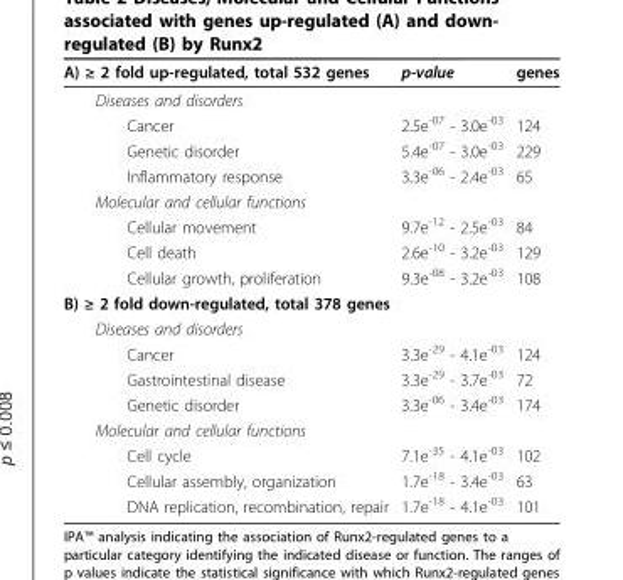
<table><thead><tr><td>A) ≥ 2 fold up-regulated, total 532 genes</td><td>p-value</td><td>genes</td></tr></thead><tbody><tr><td colspan="3">Diseases and disorders</td></tr><tr><td>Cancer</td><td>2.5e<sup>-07</sup> - 3.0e<sup>-03</sup></td><td>124</td></tr><tr><td>Genetic disorder</td><td>5.4e<sup>-07</sup> - 3.0e<sup>-03</sup></td><td>229</td></tr><tr><td>Inflammatory response</td><td>3.3e<sup>-06</sup> - 2.4e<sup>-03</sup></td><td>65</td></tr><tr><td colspan="3">Molecular and cellular functions</td></tr><tr><td>Cellular movement</td><td>9.7e<sup>-12</sup> - 2.5e<sup>-03</sup></td><td>84</td></tr><tr><td>Cell death</td><td>2.6e<sup>-10</sup> - 3.2e<sup>-03</sup></td><td>129</td></tr><tr><td>Cellular growth, proliferation</td><td>9.3e<sup>-08</sup> - 3.2e<sup>-03</sup></td><td>108</td></tr><tr><td colspan="3">B) ≥ 2 fold down-regulated, total 378 genes</td></tr><tr><td colspan="3">Diseases and disorders</td></tr><tr><td>Cancer</td><td>3.3e<sup>-29</sup> - 4.1e<sup>-03</sup></td><td>124</td></tr><tr><td>Gastrointestinal disease</td><td>3.3e<sup>-29</sup> - 3.7e<sup>-03</sup></td><td>72</td></tr><tr><td>Genetic disorder</td><td>3.3e<sup>-06</sup> - 3.4e<sup>-03</sup></td><td>174</td></tr><tr><td colspan="3">Molecular and cellular functions</td></tr><tr><td>Cell cycle</td><td>7.1e<sup>-35</sup> - 4.1e<sup>-03</sup></td><td>102</td></tr><tr><td>Cellular assembly, organization</td><td>1.7e<sup>-18</sup> - 3.4e<sup>-03</sup></td><td>63</td></tr><tr><td>DNA replication, recombination, repair</td><td>1.7e<sup>-18</sup> - 4.1e<sup>-03</sup></td><td>101</td></tr></tbody></table>